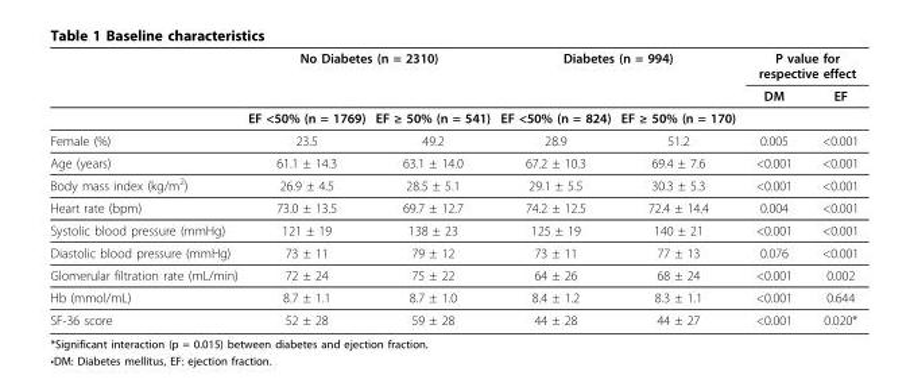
<table><thead><tr><td rowspan="2"></td><td colspan="2">No Diabetes (n = 2310)</td><td colspan="2">Diabetes (n = 994)</td><td colspan="2">P value for respective effect</td></tr><tr><td></td><td></td><td></td><td></td><td>DM</td><td>EF</td></tr></thead><tbody><tr><td></td><td>EF &lt;50% (n = 1769)</td><td>EF ≥ 50% (n = 541)</td><td>EF &lt;50% (n = 824)</td><td>EF ≥ 50% (n = 170)</td><td></td><td></td></tr><tr><td>Female (%)</td><td>23.5</td><td>49.2</td><td>28.9</td><td>51.2</td><td>0.005</td><td>&lt;0.001</td></tr><tr><td>Age (years)</td><td>61.1 ± 14.3</td><td>63.1 ± 14.0</td><td>67.2 ± 10.3</td><td>69.4 ± 7.6</td><td>&lt;0.001</td><td>&lt;0.001</td></tr><tr><td>Body mass index (kg/m<sup>2</sup>)</td><td>26.9 ± 4.5</td><td>28.5 ± 5.1</td><td>29.1 ± 5.5</td><td>30.3 ± 5.3</td><td>&lt;0.001</td><td>&lt;0.001</td></tr><tr><td>Heart rate (bpm)</td><td>73.0 ± 13.5</td><td>69.7 ± 12.7</td><td>74.2 ± 12.5</td><td>72.4 ± 14.4</td><td>0.004</td><td>&lt;0.001</td></tr><tr><td>Systolic blood pressure (mmHg)</td><td>121 ± 19</td><td>138 ± 23</td><td>125 ± 19</td><td>140 ± 21</td><td>&lt;0.001</td><td>&lt;0.001</td></tr><tr><td>Diastolic blood pressure (mmHg)</td><td>73 ± 11</td><td>79 ± 12</td><td>73 ± 11</td><td>77 ± 13</td><td>0.076</td><td>&lt;0.001</td></tr><tr><td>Glomerular filtration rate (mL/min)</td><td>72 ± 24</td><td>75 ± 22</td><td>64 ± 26</td><td>68 ± 24</td><td>&lt;0.001</td><td>0.002</td></tr><tr><td>Hb (mmol/mL)</td><td>8.7 ± 1.1</td><td>8.7 ± 1.0</td><td>8.4 ± 1.2</td><td>8.3 ± 1.1</td><td>&lt;0.001</td><td>0.644</td></tr><tr><td>SF-36 score</td><td>52 ± 28</td><td>59 ± 28</td><td>44 ± 28</td><td>44 ± 27</td><td>&lt;0.001</td><td>0.020*</td></tr></tbody></table>